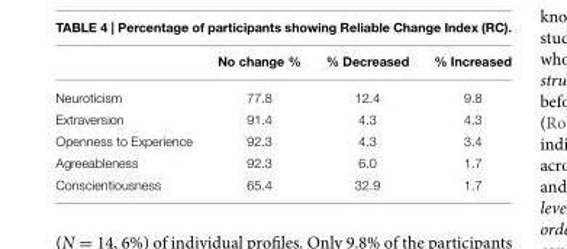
<table><thead><tr><td></td><td>No change %</td><td>% Decreased</td><td>% Increased</td></tr></thead><tbody><tr><td>Neuroticism</td><td>77.8</td><td>12.4</td><td>9.8</td></tr><tr><td>Extraversion</td><td>91.4</td><td>4.3</td><td>4.3</td></tr><tr><td>Openness to Experience</td><td>92.3</td><td>4.3</td><td>3.4</td></tr><tr><td>Agreeableness</td><td>92.3</td><td>6.0</td><td>1.7</td></tr><tr><td>Conscientiousness</td><td>65.4</td><td>32.9</td><td>1.7</td></tr></tbody></table>